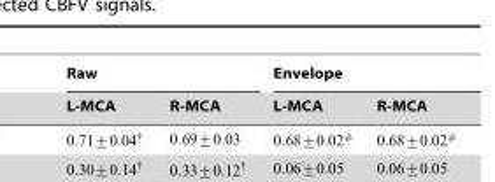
<table><thead><tr><td colspan="2">Raw</td><td colspan="2">Envelope</td></tr><tr><td>L-MCA</td><td>R-MCA</td><td>L-MCA</td><td>R-MCA</td></tr></thead><tbody></tbody></table>